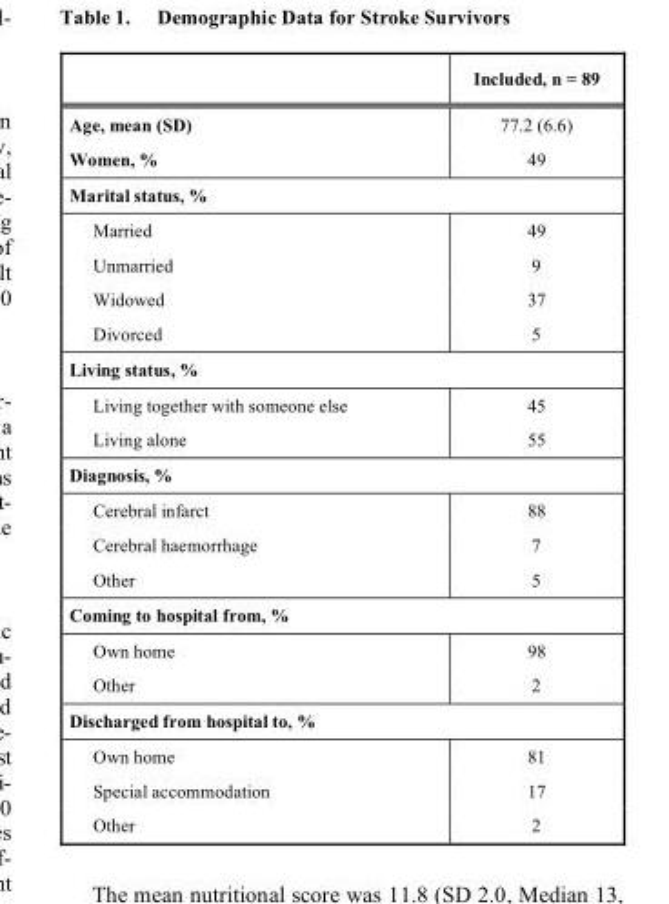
<table><thead><tr><td></td><td>Included, n = 89</td></tr></thead><tbody><tr><td>Age, mean (SD) Women, %</td><td>77.2 (6.6) 49</td></tr><tr><td colspan="2">Marital status, %</td></tr><tr><td>Married Unmarried Widowed Divorced</td><td>49 9 37 5</td></tr><tr><td colspan="2">Living status, %</td></tr><tr><td>Living together with someone else Living alone</td><td>45 55</td></tr><tr><td colspan="2">Diagnosis, %</td></tr><tr><td>Cerebral infarct Cerebral haemorrhage Other</td><td>88 7 5</td></tr><tr><td colspan="2">Coming to hospital from, %</td></tr><tr><td>Own home Other</td><td>98 2</td></tr><tr><td colspan="2">Discharged from hospital to, %</td></tr><tr><td>Own home Special accommodation Other</td><td>81 17 2</td></tr></tbody></table>